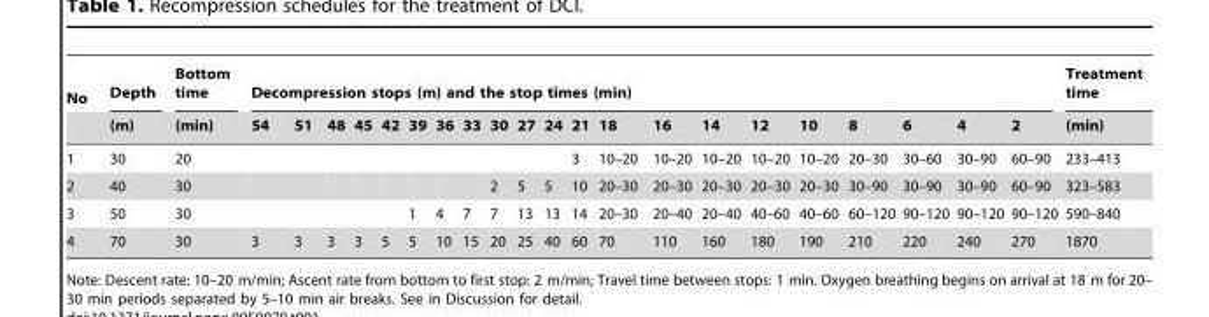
<table><thead><tr><td rowspan="2">No</td><td rowspan="2">Depth (m)</td><td rowspan="2">Bottom time (min)</td><td colspan="21">Decompression stops (m) and the stop times (min)</td><td rowspan="2">Treatment time (min)</td></tr><tr><td>54</td><td>51</td><td>48</td><td>45</td><td>42</td><td>39</td><td>36</td><td>33</td><td>30</td><td>27</td><td>24</td><td>21</td><td>18</td><td>16</td><td>14</td><td>12</td><td>10</td><td>8</td><td>6</td><td>4</td><td>2</td></tr></thead><tbody><tr><td>1</td><td>30</td><td>20</td><td></td><td></td><td></td><td></td><td></td><td></td><td></td><td></td><td></td><td></td><td></td><td>3</td><td>10–20</td><td>10–20</td><td>10–20</td><td>10–20</td><td>10–20</td><td>20–30</td><td>30–60</td><td>30–90</td><td>60–90</td><td>233–413</td></tr><tr><td>2</td><td>40</td><td>30</td><td></td><td></td><td></td><td></td><td></td><td></td><td></td><td></td><td>2</td><td>5</td><td>5</td><td>10</td><td>20–30</td><td>20–30</td><td>20–30</td><td>20–30</td><td>20–30</td><td>30–90</td><td>30–90</td><td>30–90</td><td>60–90</td><td>323–583</td></tr><tr><td>3</td><td>50</td><td>30</td><td></td><td></td><td></td><td></td><td></td><td>1</td><td>4</td><td>7</td><td>7</td><td>13</td><td>13</td><td>14</td><td>20–30</td><td>20–40</td><td>20–40</td><td>40–60</td><td>40–60</td><td>60–120</td><td>90–120</td><td>90–120</td><td>90–120</td><td>590–840</td></tr><tr><td>4</td><td>70</td><td>30</td><td>3</td><td>3</td><td>3</td><td>3</td><td>5</td><td>5</td><td>10</td><td>15</td><td>20</td><td>25</td><td>40</td><td>60</td><td>70</td><td>110</td><td>160</td><td>180</td><td>190</td><td>210</td><td>220</td><td>240</td><td>270</td><td>1870</td></tr></tbody></table>